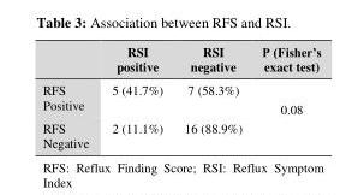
<table><thead><tr><td></td><td>RSI positive</td><td>RSI negative</td><td>P (Fisher’s exact test)</td></tr></thead><tbody><tr><td>RFS Positive</td><td>5 (41.7%)</td><td>7 (58.3%)</td><td rowspan="2">0.08</td></tr><tr><td>RFS Negative</td><td>2 (11.1%)</td><td>16 (88.9%)</td></tr></tbody></table>